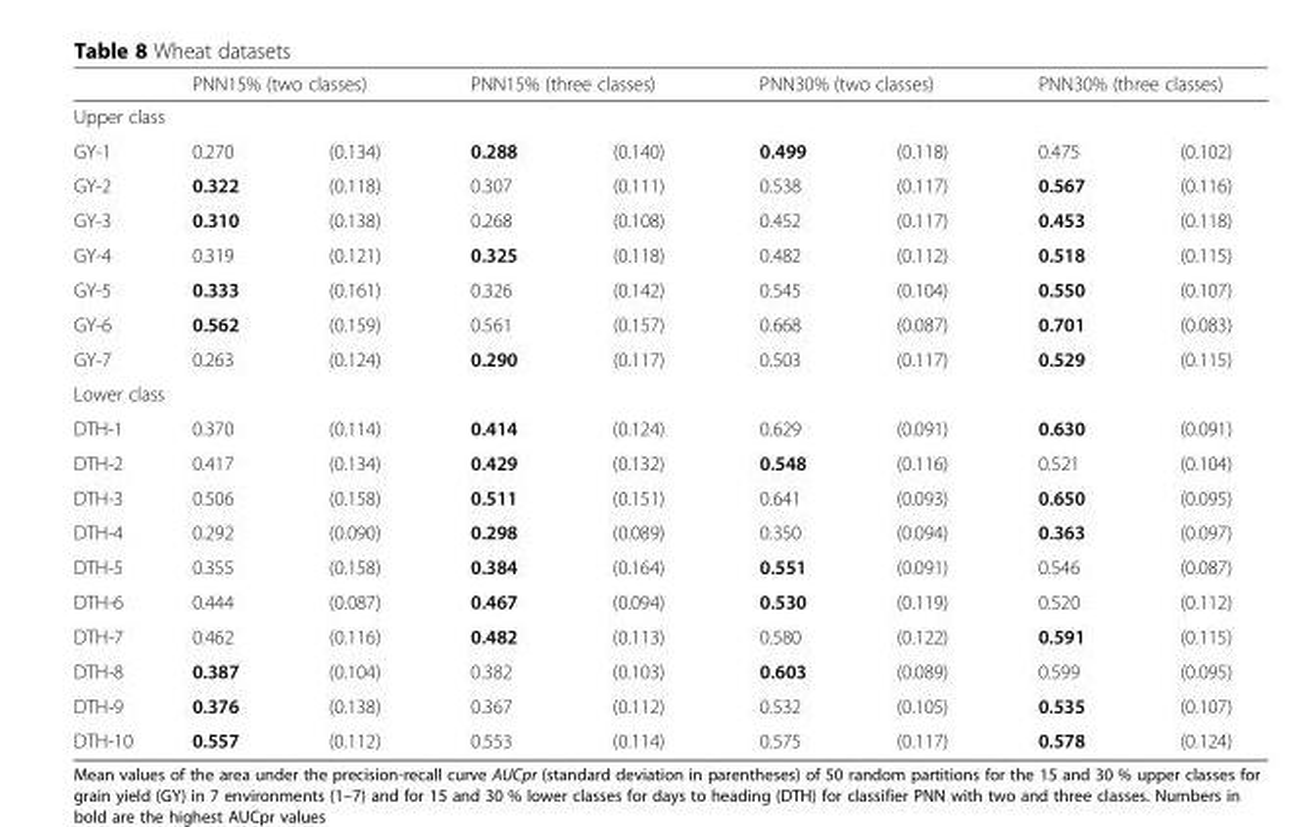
<table><thead><tr><td></td><td colspan="2">PNN15% (two classes)</td><td colspan="2">PNN15% (three classes)</td><td colspan="2">PNN30% (two classes)</td><td colspan="2">PNN30% (three classes)</td></tr><tr><td colspan="9">Upper class</td></tr><tr><td>GY-1</td><td>0.270</td><td>(0.134)</td><td>0.288</td><td>(0.140)</td><td>0.499</td><td>(0.118)</td><td>0.475</td><td>(0.102)</td></tr></thead><tbody><tr><td>GY-2</td><td>0.322</td><td>(0.118)</td><td>0.307</td><td>(0.111)</td><td>0.538</td><td>(0.117)</td><td>0.567</td><td>(0.116)</td></tr><tr><td>GY-3</td><td>0.310</td><td>(0.138)</td><td>0.268</td><td>(0.108)</td><td>0.452</td><td>(0.117)</td><td>0.453</td><td>(0.118)</td></tr><tr><td>GY-4</td><td>0.319</td><td>(0.121)</td><td>0.325</td><td>(0.118)</td><td>0.482</td><td>(0.112)</td><td>0.518</td><td>(0.115)</td></tr><tr><td>GY-5</td><td>0.333</td><td>(0.161)</td><td>0.326</td><td>(0.142)</td><td>0.545</td><td>(0.104)</td><td>0.550</td><td>(0.107)</td></tr><tr><td>GY-6</td><td>0.562</td><td>(0.159)</td><td>0.561</td><td>(0.157)</td><td>0.668</td><td>(0.087)</td><td>0.701</td><td>(0.083)</td></tr><tr><td>GY-7</td><td>0.263</td><td>(0.124)</td><td>0.290</td><td>(0.117)</td><td>0.503</td><td>(0.117)</td><td>0.529</td><td>(0.115)</td></tr><tr><td colspan="9">Lower class</td></tr><tr><td>DTH-1</td><td>0.370</td><td>(0.114)</td><td>0.414</td><td>(0.124)</td><td>0.629</td><td>(0.091)</td><td>0.630</td><td>(0.091)</td></tr><tr><td>DTH-2</td><td>0.417</td><td>(0.134)</td><td>0.429</td><td>(0.132)</td><td>0.548</td><td>(0.116)</td><td>0.521</td><td>(0.104)</td></tr><tr><td>DTH-3</td><td>0.506</td><td>(0.158)</td><td>0.511</td><td>(0.151)</td><td>0.641</td><td>(0.093)</td><td>0.650</td><td>(0.095)</td></tr><tr><td>DTH-4</td><td>0.292</td><td>(0.090)</td><td>0.298</td><td>(0.089)</td><td>0.350</td><td>(0.094)</td><td>0.363</td><td>(0.097)</td></tr><tr><td>DTH-5</td><td>0.355</td><td>(0.158)</td><td>0.384</td><td>(0.164)</td><td>0.551</td><td>(0.091)</td><td>0.546</td><td>(0.087)</td></tr><tr><td>DTH-6</td><td>0.444</td><td>(0.087)</td><td>0.467</td><td>(0.094)</td><td>0.530</td><td>(0.119)</td><td>0.520</td><td>(0.112)</td></tr><tr><td>DTH-7</td><td>0.462</td><td>(0.116)</td><td>0.482</td><td>(0.113)</td><td>0.580</td><td>(0.122)</td><td>0.591</td><td>(0.115)</td></tr><tr><td>DTH-8</td><td>0.387</td><td>(0.104)</td><td>0.382</td><td>(0.103)</td><td>0.603</td><td>(0.089)</td><td>0.599</td><td>(0.095)</td></tr><tr><td>DTH-9</td><td>0.376</td><td>(0.138)</td><td>0.367</td><td>(0.112)</td><td>0.532</td><td>(0.105)</td><td>0.535</td><td>(0.107)</td></tr><tr><td>DTH-10</td><td>0.557</td><td>(0.112)</td><td>0.553</td><td>(0.114)</td><td>0.575</td><td>(0.117)</td><td>0.578</td><td>(0.124)</td></tr></tbody></table>